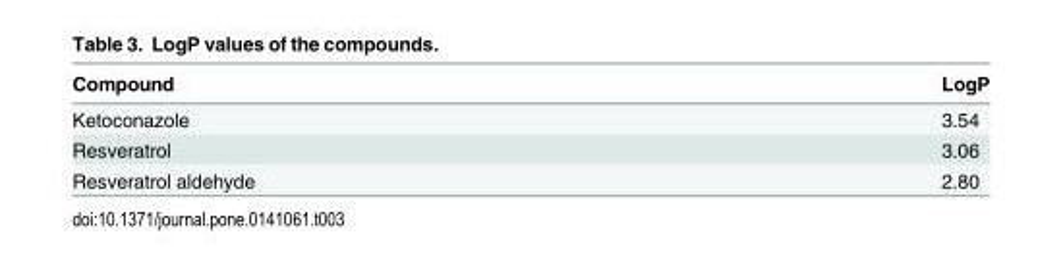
<table><thead><tr><td>Compound</td><td>LogP</td></tr></thead><tbody><tr><td>Ketoconazole</td><td>3.54</td></tr><tr><td>Resveratrol</td><td>3.06</td></tr><tr><td>Resveratrol aldehyde</td><td>2.80</td></tr></tbody></table>